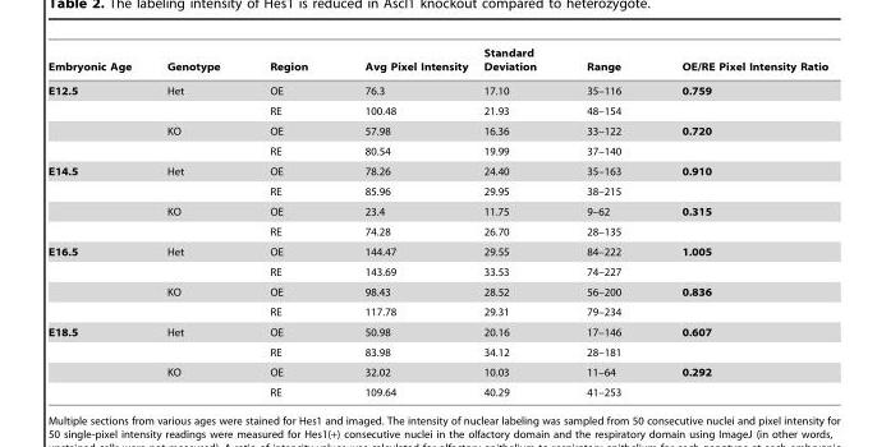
<table><thead><tr><td>Embryonic Age</td><td>Genotype</td><td>Region</td><td>Avg Pixel Intensity</td><td>Standard Deviation</td><td>Range</td><td>OE/RE Pixel Intensity Ratio</td></tr></thead><tbody><tr><td rowspan="4">E12.5</td><td>Het</td><td>OE</td><td>76.3</td><td>17.10</td><td>35–116</td><td>0.759</td></tr><tr><td></td><td>RE</td><td>100.48</td><td>21.93</td><td>48–154</td><td></td></tr><tr><td>KO</td><td>OE</td><td>57.98</td><td>16.36</td><td>33–122</td><td>0.720</td></tr><tr><td></td><td>RE</td><td>80.54</td><td>19.99</td><td>37–140</td><td></td></tr><tr><td rowspan="4">E14.5</td><td>Het</td><td>OE</td><td>78.26</td><td>24.40</td><td>35–163</td><td>0.910</td></tr><tr><td></td><td>RE</td><td>85.96</td><td>29.95</td><td>38–215</td><td></td></tr><tr><td>KO</td><td>OE</td><td>23.4</td><td>11.75</td><td>9–62</td><td>0.315</td></tr><tr><td></td><td>RE</td><td>74.28</td><td>26.70</td><td>28–135</td><td></td></tr><tr><td rowspan="4">E16.5</td><td>Het</td><td>OE</td><td>144.47</td><td>29.55</td><td>84–222</td><td>1.005</td></tr><tr><td></td><td>RE</td><td>143.69</td><td>33.53</td><td>74–227</td><td></td></tr><tr><td>KO</td><td>OE</td><td>98.43</td><td>28.52</td><td>56–200</td><td>0.836</td></tr><tr><td></td><td>RE</td><td>117.78</td><td>29.31</td><td>79–234</td><td></td></tr><tr><td rowspan="4">E18.5</td><td>Het</td><td>OE</td><td>50.98</td><td>20.16</td><td>17–146</td><td>0.607</td></tr><tr><td></td><td>RE</td><td>83.98</td><td>34.12</td><td>28–181</td><td></td></tr><tr><td>KO</td><td>OE</td><td>32.02</td><td>10.03</td><td>11–64</td><td>0.292</td></tr><tr><td></td><td>RE</td><td>109.64</td><td>40.29</td><td>41–253</td><td></td></tr></tbody></table>